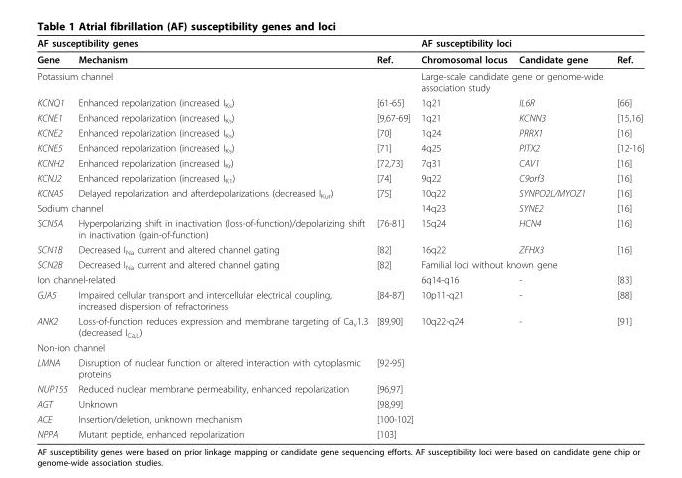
<table><thead><tr><td colspan="3">AF susceptibility genes</td><td colspan="3">AF susceptibility loci</td></tr><tr><td>Gene</td><td>Mechanism</td><td>Ref.</td><td>Chromosomal locus</td><td>Candidate gene</td><td>Ref.</td></tr></thead><tbody><tr><td colspan="3">Potassium channel</td><td colspan="3">Large-scale candidate gene or genome-wide association study</td></tr><tr><td>KCNQ1</td><td>Enhanced repolarization (increased I<sub>Ks</sub>)</td><td>[61-65]</td><td>1q21</td><td>IL6R</td><td>[66]</td></tr><tr><td>KCNE1</td><td>Enhanced repolarization (increased I<sub>Ks</sub>)</td><td>[9,67-69]</td><td>1q21</td><td>KCNN3</td><td>[15,16]</td></tr><tr><td>KCNE2</td><td>Enhanced repolarization (increased I<sub>Ks</sub>)</td><td>[70]</td><td>1q24</td><td>PRRX1</td><td>[16]</td></tr><tr><td>KCNE5</td><td>Enhanced repolarization (increased I<sub>Ks</sub>)</td><td>[71]</td><td>4q25</td><td>PITX2</td><td>[12-16]</td></tr><tr><td>KCNH2</td><td>Enhanced repolarization (increased I<sub>Kr</sub>)</td><td>[72,73]</td><td>7q31</td><td>CAV1</td><td>[16]</td></tr><tr><td>KCNJ2</td><td>Enhanced repolarization (increased I<sub>K1</sub>)</td><td>[74]</td><td>9q22</td><td>C9orf3</td><td>[16]</td></tr><tr><td>KCNA5</td><td>Delayed repolarization and afterdepolarizations (decreased I<sub>Kur</sub>)</td><td>[75]</td><td>10q22</td><td>SYNPO2L/MYOZ1</td><td>[16]</td></tr><tr><td colspan="3">Sodium channel</td><td>14q23</td><td>SYNE2</td><td>[16]</td></tr><tr><td>SCN5A</td><td>Hyperpolarizing shift in inactivation (loss-of-function)/depolarizing shift in inactivation (gain-of-function)</td><td>[76-81]</td><td>15q24</td><td>HCN4</td><td>[16]</td></tr><tr><td>SCN1B</td><td>Decreased I<sub>Na</sub> current and altered channel gating</td><td>[82]</td><td>16q22</td><td>ZFHX3</td><td>[16]</td></tr><tr><td>SCN2B</td><td>Decreased I<sub>Na</sub> current and altered channel gating</td><td>[82]</td><td colspan="3">Familial loci without known gene</td></tr><tr><td colspan="3">Ion channel-related</td><td>6q14-q16</td><td>-</td><td>[83]</td></tr><tr><td>GJA5</td><td>Impaired cellular transport and intercellular electrical coupling, increased dispersion of refractoriness</td><td>[84-87]</td><td>10p11-q21</td><td>-</td><td>[88]</td></tr><tr><td>ANK2</td><td>Loss-of-function reduces expression and membrane targeting of Ca<sub>v</sub>1.3 (decreased I<sub>Ca,L</sub>)</td><td>[89,90]</td><td>10q22-q24</td><td>-</td><td>[91]</td></tr><tr><td colspan="6">Non-ion channel</td></tr><tr><td>LMNA</td><td>Disruption of nuclear function or altered interaction with cytoplasmic proteins</td><td>[92-95]</td><td></td><td colspan="2"></td></tr><tr><td>NUP155</td><td>Reduced nuclear membrane permeability, enhanced repolarization</td><td>[96,97]</td><td></td><td colspan="2"></td></tr><tr><td>AGT</td><td>Unknown</td><td>[98,99]</td><td></td><td colspan="2"></td></tr><tr><td>ACE</td><td>Insertion/deletion, unknown mechanism</td><td>[100-102]</td><td></td><td colspan="2"></td></tr><tr><td>NPPA</td><td>Mutant peptide, enhanced repolarization</td><td>[103]</td><td></td><td colspan="2"></td></tr></tbody></table>